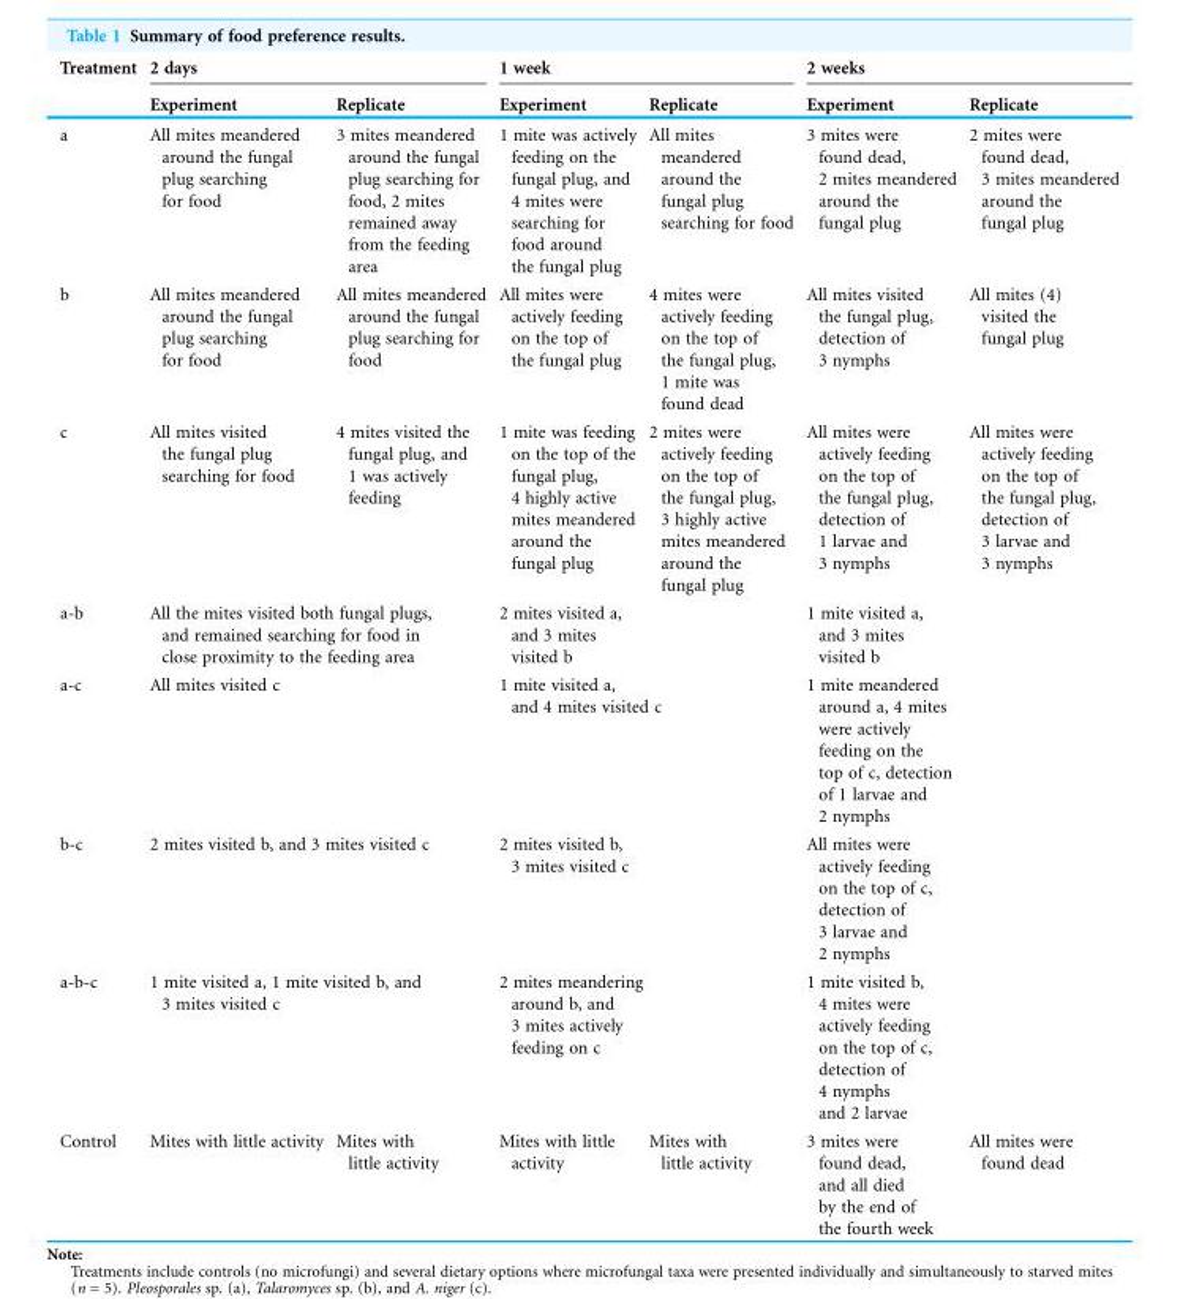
<table><thead><tr><td rowspan="2">Treatment</td><td colspan="2">2 days</td><td colspan="2">1 week</td><td colspan="2">2 weeks</td></tr><tr><td>Experiment</td><td>Replicate</td><td>Experiment</td><td>Replicate</td><td>Experiment</td><td>Replicate</td></tr></thead><tbody><tr><td>a</td><td>All mites meandered around the fungal plug searching for food</td><td>3 mites meandered around the fungal plug searching for food, 2 mites remained away from the feeding area</td><td>1 mite was actively feeding on the fungal plug, and 4 mites were searching for food around the fungal plug</td><td>All mites meandered around the fungal plug searching for food</td><td>3 mites were found dead, 2 mites meandered around the fungal plug</td><td>2 mites were found dead, 3 mites meandered around the fungal plug</td></tr><tr><td>b</td><td>All mites meandered around the fungal plug searching for food</td><td>All mites meandered around the fungal plug searching for food</td><td>All mites were actively feeding on the top of the fungal plug</td><td>4 mites were actively feeding on the top of the fungal plug, 1 mite was found dead</td><td>All mites visited the fungal plug, detection of 3 nymphs</td><td>All mites (4) visited the fungal plug</td></tr><tr><td>c</td><td>All mites visited the fungal plug searching for food</td><td>4 mites visited the fungal plug, and 1 was actively feeding</td><td>1 mite was feeding on the top of the fungal plug, 4 highly active mites meandered around the fungal plug</td><td>2 mites were actively feeding on the top of the fungal plug, 3 highly active mites meandered around the fungal plug</td><td>All mites were actively feeding on the top of the fungal plug, detection of 1 larvae and 3 nymphs</td><td>All mites were actively feeding on the top of the fungal plug, detection of 3 larvae and 3 nymphs</td></tr><tr><td>a-b</td><td colspan="2">All the mites visited both fungal plugs, and remained searching for food in close proximity to the feeding area</td><td colspan="2">2 mites visited a, and 3 mites visited b</td><td colspan="2">1 mite visited a, and 3 mites visited b</td></tr><tr><td>a-c</td><td colspan="2">All mites visited c</td><td colspan="2">1 mite visited a, and 4 mites visited c</td><td colspan="2">1 mite meandered around a, 4 mites were actively feeding on the top of c, detection of 1 larvae and 2 nymphs</td></tr><tr><td>b-c</td><td colspan="2">2 mites visited b, and 3 mites visited c</td><td colspan="2">2 mites visited b, 3 mites visited c</td><td colspan="2">All mites were actively feeding on the top of c, detection of 3 larvae and 2 nymphs</td></tr><tr><td>a-b-c</td><td colspan="2">1 mite visited a, 1 mite visited b, and 3 mites visited c</td><td colspan="2">2 mites meandering around b, and 3 mites actively feeding on c</td><td colspan="2">1 mite visited b, 4 mites were actively feeding on the top of c, detection of 4 nymphs and 2 larvae</td></tr><tr><td>Control</td><td>Mites with little activity</td><td>Mites with little activity</td><td>Mites with little activity</td><td>Mites with little activity</td><td>3 mites were found dead, and all died by the end of the fourth week</td><td>All mites were found dead</td></tr></tbody></table>